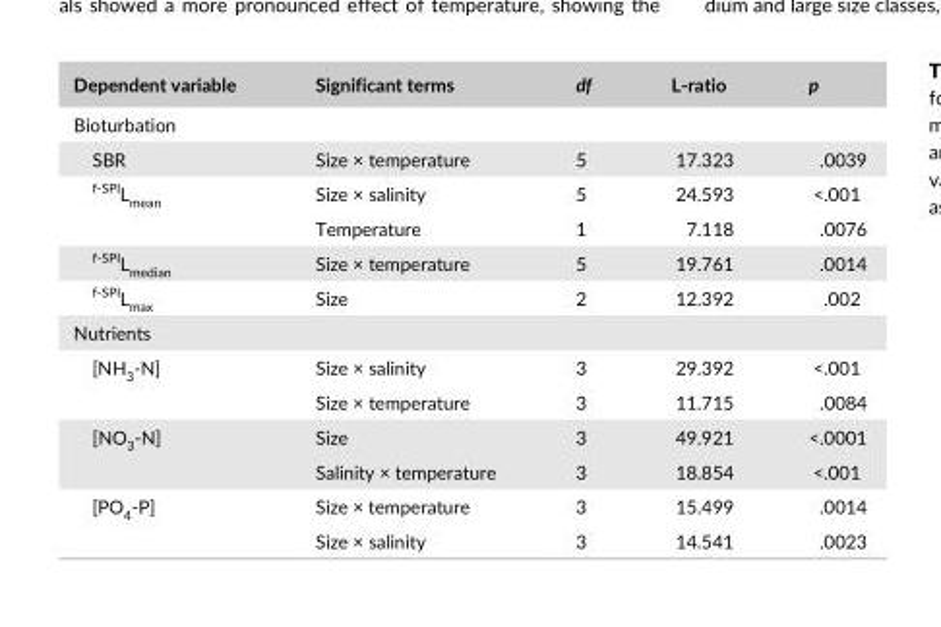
<table><thead><tr><td>Dependent variable</td><td>Significant terms</td><td>df</td><td>L- ratio</td><td>p</td></tr></thead><tbody><tr><td colspan="5">Bioturbation</td></tr><tr><td>SBR</td><td>Size × temperature</td><td>5</td><td>17.323</td><td>.0039</td></tr><tr><td rowspan="2"><sup>f-SPI</sup>L<sub>mean</sub></td><td>Size × salinity</td><td>5</td><td>24.593</td><td>&lt;.001</td></tr><tr><td>Temperature</td><td>1</td><td>7.118</td><td>.0076</td></tr><tr><td><sup>f-SPI</sup>L<sub>median</sub></td><td>Size × temperature</td><td>5</td><td>19.761</td><td>.0014</td></tr><tr><td><sup>f-SPI</sup>L<sub>max</sub></td><td>Size</td><td>2</td><td>12.392</td><td>.002</td></tr><tr><td colspan="5">Nutrients</td></tr><tr><td rowspan="2">[NH<sub>3</sub>- N]</td><td>Size × salinity</td><td>3</td><td>29.392</td><td>&lt;.001</td></tr><tr><td>Size × temperature</td><td>3</td><td>11.715</td><td>.0084</td></tr><tr><td rowspan="2">[NO<sub>3</sub>- N]</td><td>Size</td><td>3</td><td>49.921</td><td>&lt;.0001</td></tr><tr><td>Salinity × temperature</td><td>3</td><td>18.854</td><td>&lt;.001</td></tr><tr><td rowspan="2">[PO<sub>4</sub>- P]</td><td>Size × temperature</td><td>3</td><td>15.499</td><td>.0014</td></tr><tr><td>Size × salinity</td><td>3</td><td>14.541</td><td>.0023</td></tr></tbody></table>